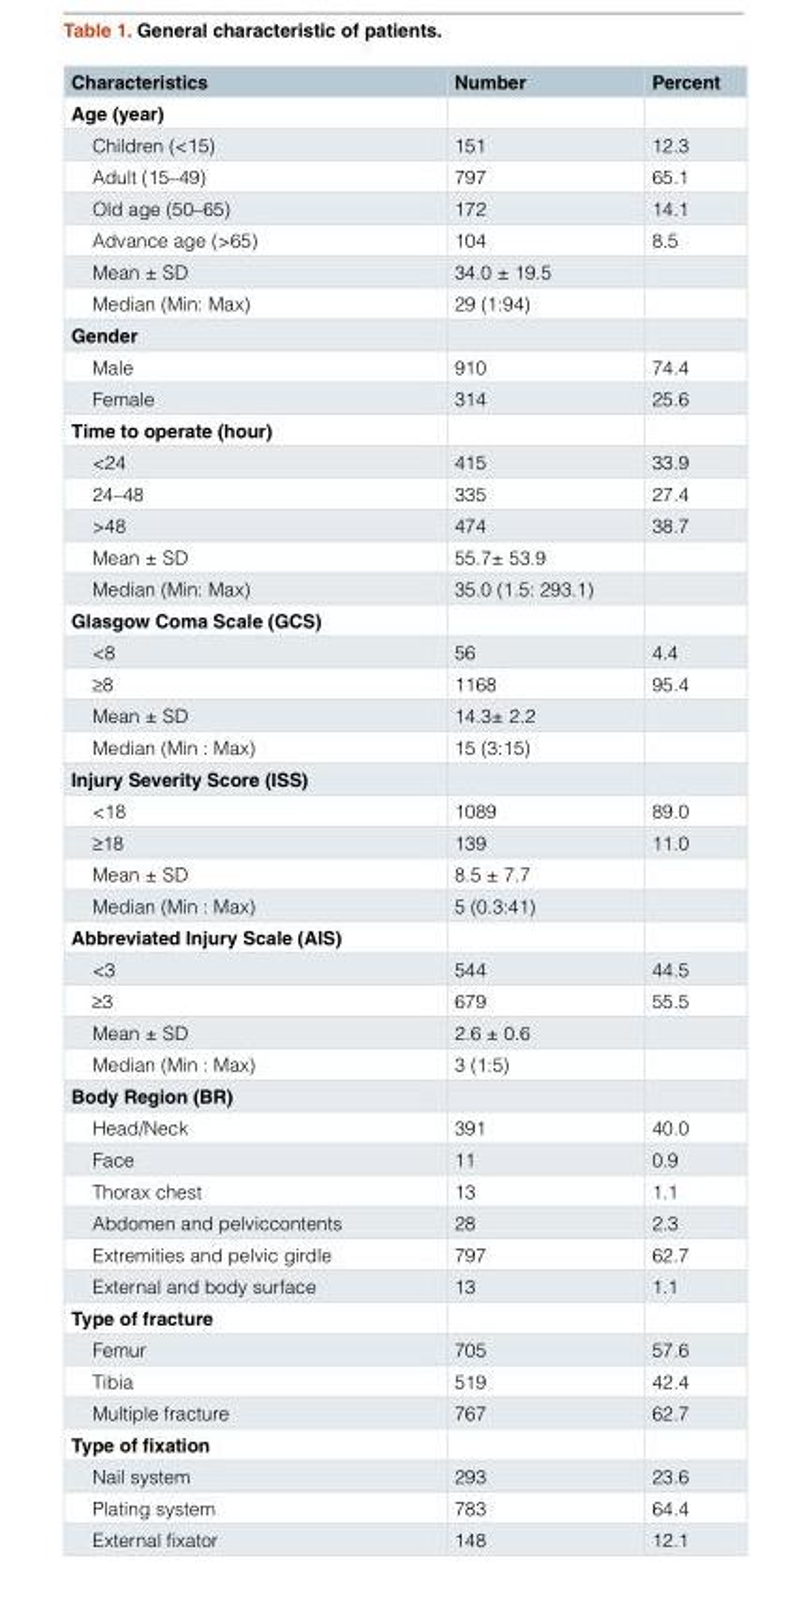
<table><thead><tr><td>Characteristics</td><td>Number</td><td>Percent</td></tr></thead><tbody><tr><td colspan="3">Age (year)</td></tr><tr><td>Children (&lt;15)</td><td>151</td><td>12.3</td></tr><tr><td>Adult (15–49)</td><td>797</td><td>65.1</td></tr><tr><td>Old age (50–65)</td><td>172</td><td>14.1</td></tr><tr><td>Advance age (&gt;65)</td><td>104</td><td>8.5</td></tr><tr><td>Mean ± SD</td><td>34.0 ± 19.5</td><td></td></tr><tr><td>Median (Min: Max)</td><td>29 (1:94)</td><td></td></tr><tr><td colspan="3">Gender</td></tr><tr><td>Male</td><td>910</td><td>74.4</td></tr><tr><td>Female</td><td>314</td><td>25.6</td></tr><tr><td colspan="3">Time to operate (hour)</td></tr><tr><td>&lt;24</td><td>415</td><td>33.9</td></tr><tr><td>24–48</td><td>335</td><td>27.4</td></tr><tr><td>&gt;48</td><td>474</td><td>38.7</td></tr><tr><td>Mean ± SD</td><td>55.7± 53.9</td><td></td></tr><tr><td>Median (Min: Max)</td><td>35.0 (1.5: 293.1)</td><td></td></tr><tr><td colspan="3">Glasgow Coma Scale (GCS)</td></tr><tr><td>&lt;8</td><td>56</td><td>4.4</td></tr><tr><td>≥8</td><td>1168</td><td>95.4</td></tr><tr><td>Mean ± SD</td><td>14.3± 2.2</td><td></td></tr><tr><td>Median (Min : Max)</td><td>15 (3:15)</td><td></td></tr><tr><td colspan="3">Injury Severity Score (ISS)</td></tr><tr><td>&lt;18</td><td>1089</td><td>89.0</td></tr><tr><td>≥18</td><td>139</td><td>11.0</td></tr><tr><td>Mean ± SD</td><td>8.5 ± 7.7</td><td></td></tr><tr><td>Median (Min : Max)</td><td>5 (0.3:41)</td><td></td></tr><tr><td colspan="3">Abbreviated Injury Scale (AIS)</td></tr><tr><td>&lt;3</td><td>544</td><td>44.5</td></tr><tr><td>≥3</td><td>679</td><td>55.5</td></tr><tr><td>Mean ± SD</td><td>2.6 ± 0.6</td><td></td></tr><tr><td>Median (Min : Max)</td><td>3 (1:5)</td><td></td></tr><tr><td colspan="3">Body Region (BR)</td></tr><tr><td>Head/Neck</td><td>391</td><td>40.0</td></tr><tr><td>Face</td><td>11</td><td>0.9</td></tr><tr><td>Thorax chest</td><td>13</td><td>1.1</td></tr><tr><td>Abdomen and pelviccontents</td><td>28</td><td>2.3</td></tr><tr><td>Extremities and pelvic girdle</td><td>797</td><td>62.7</td></tr><tr><td>External and body surface</td><td>13</td><td>1.1</td></tr><tr><td colspan="3">Type of fracture</td></tr><tr><td>Femur</td><td>705</td><td>57.6</td></tr><tr><td>Tibia</td><td>519</td><td>42.4</td></tr><tr><td>Multiple fracture</td><td>767</td><td>62.7</td></tr><tr><td colspan="3">Type of fixation</td></tr><tr><td>Nail system</td><td>293</td><td>23.6</td></tr><tr><td>Plating system</td><td>783</td><td>64.4</td></tr><tr><td>External fixator</td><td>148</td><td>12.1</td></tr></tbody></table>